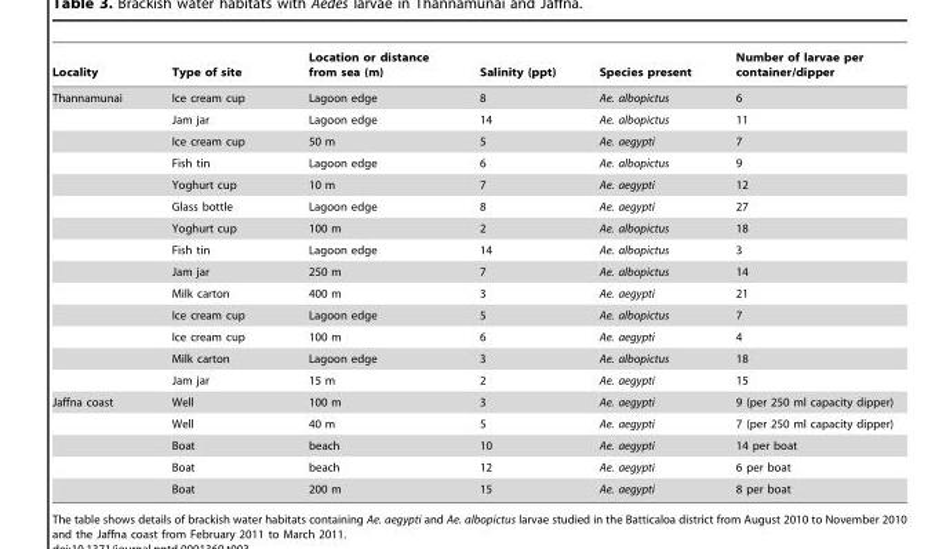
<table><thead><tr><td>Locality</td><td>Type of site</td><td>Location or distance from sea (m)</td><td>Salinity (ppt)</td><td>Species present</td><td>Number of larvae per container/dipper</td></tr></thead><tbody><tr><td rowspan="14">Thannamunai</td><td>Ice cream cup</td><td>Lagoon edge</td><td>8</td><td>Ae. albopictus</td><td>6</td></tr><tr><td>Jam jar</td><td>Lagoon edge</td><td>14</td><td>Ae. albopictus</td><td>11</td></tr><tr><td>Ice cream cup</td><td>50 m</td><td>5</td><td>Ae. aegypti</td><td>7</td></tr><tr><td>Fish tin</td><td>Lagoon edge</td><td>6</td><td>Ae. albopictus</td><td>9</td></tr><tr><td>Yoghurt cup</td><td>10 m</td><td>7</td><td>Ae. aegypti</td><td>12</td></tr><tr><td>Glass bottle</td><td>Lagoon edge</td><td>8</td><td>Ae. aegypti</td><td>27</td></tr><tr><td>Yoghurt cup</td><td>100 m</td><td>2</td><td>Ae. albopictus</td><td>18</td></tr><tr><td>Fish tin</td><td>Lagoon edge</td><td>14</td><td>Ae. albopictus</td><td>3</td></tr><tr><td>Jam jar</td><td>250 m</td><td>7</td><td>Ae. albopictus</td><td>14</td></tr><tr><td>Milk carton</td><td>400 m</td><td>3</td><td>Ae. aegypti</td><td>21</td></tr><tr><td>Ice cream cup</td><td>Lagoon edge</td><td>5</td><td>Ae. albopictus</td><td>7</td></tr><tr><td>Ice cream cup</td><td>100 m</td><td>6</td><td>Ae. aegypti</td><td>4</td></tr><tr><td>Milk carton</td><td>Lagoon edge</td><td>3</td><td>Ae. albopictus</td><td>18</td></tr><tr><td>Jam jar</td><td>15 m</td><td>2</td><td>Ae. aegypti</td><td>15</td></tr><tr><td rowspan="5">Jaffna coast</td><td>Well</td><td>100 m</td><td>3</td><td>Ae. aegypti</td><td>9 (per 250 ml capacity dipper)</td></tr><tr><td>Well</td><td>40 m</td><td>5</td><td>Ae. aegypti</td><td>7 (per 250 ml capacity dipper)</td></tr><tr><td>Boat</td><td>beach</td><td>10</td><td>Ae. aegypti</td><td>14 per boat</td></tr><tr><td>Boat</td><td>beach</td><td>12</td><td>Ae. aegypti</td><td>6 per boat</td></tr><tr><td>Boat</td><td>200 m</td><td>15</td><td>Ae. aegypti</td><td>8 per boat</td></tr></tbody></table>